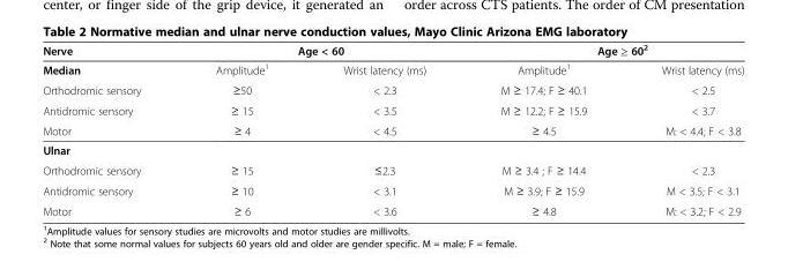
<table><thead><tr><td rowspan="2">Nerve Median</td><td colspan="2">Age &lt; 60</td><td colspan="2">Age ≥ 60<sup>2</sup></td></tr><tr><td>Amplitude<sup>1</sup></td><td>Wrist latency (ms)</td><td>Amplitude<sup>1</sup></td><td>Wrist latency (ms)</td></tr></thead><tbody><tr><td>Orthodromic sensory</td><td>≥50</td><td>&lt; 2.3</td><td>M ≥ 17.4; F ≥ 40.1</td><td>&lt; 2.5</td></tr><tr><td>Antidromic sensory</td><td>≥ 15</td><td>&lt; 3.5</td><td>M ≥ 12.2; F ≥ 15.9</td><td>&lt; 3.7</td></tr><tr><td>Motor</td><td>≥ 4</td><td>&lt; 4.5</td><td>≥ 4.5</td><td>M: &lt; 4.4; F &lt; 3.8</td></tr><tr><td colspan="5">Ulnar</td></tr><tr><td>Orthodromic sensory</td><td>≥ 15</td><td>≤2.3</td><td>M ≥ 3.4 ; F ≥ 14.4</td><td>&lt; 2.3</td></tr><tr><td>Antidromic sensory</td><td>≥ 10</td><td>&lt; 3.1</td><td>M ≥ 3.9; F ≥ 15.9</td><td>M &lt; 3.5; F &lt; 3.1</td></tr><tr><td>Motor</td><td>≥ 6</td><td>&lt; 3.6</td><td>≥ 4.8</td><td>M: &lt; 3.2; F &lt; 2.9</td></tr></tbody></table>